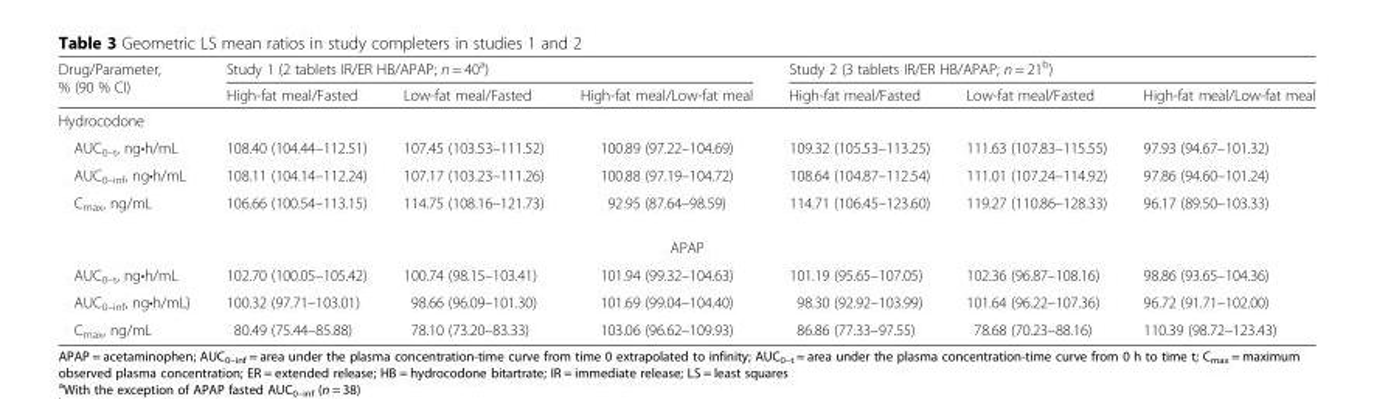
<table><thead><tr><td rowspan="2">Drug/Parameter, % (90 % CI)</td><td colspan="3">Study 1 (2 tablets IR/ER HB/APAP; n = 40<sup>a</sup>)</td><td colspan="3">Study 2 (3 tablets IR/ER HB/APAP; n = 21<sup>b</sup>)</td></tr><tr><td>High-fat meal/Fasted</td><td>Low-fat meal/Fasted</td><td>High-fat meal/Low-fat meal</td><td>High-fat meal/Fasted</td><td>Low-fat meal/Fasted</td><td>High-fat meal/Low-fat meal</td></tr></thead><tbody><tr><td colspan="7">Hydrocodone</td></tr><tr><td>AUC<sub>0–t</sub>, ng•h/mL</td><td>108.40 (104.44–112.51)</td><td>107.45 (103.53–111.52)</td><td>100.89 (97.22–104.69)</td><td>109.32 (105.53–113.25)</td><td>111.63 (107.83–115.55)</td><td>97.93 (94.67–101.32)</td></tr><tr><td>AUC<sub>0–inf</sub>, ng•h/mL</td><td>108.11 (104.14–112.24)</td><td>107.17 (103.23–111.26)</td><td>100.88 (97.19–104.72)</td><td>108.64 (104.87–112.54)</td><td>111.01 (107.24–114.92)</td><td>97.86 (94.60–101.24)</td></tr><tr><td>C<sub>max</sub>, ng/mL</td><td>106.66 (100.54–113.15)</td><td>114.75 (108.16–121.73)</td><td>92.95 (87.64–98.59)</td><td>114.71 (106.45–123.60)</td><td>119.27 (110.86–128.33)</td><td>96.17 (89.50–103.33)</td></tr><tr><td colspan="7">APAP</td></tr><tr><td>AUC<sub>0–t</sub>, ng•h/mL</td><td>102.70 (100.05–105.42)</td><td>100.74 (98.15–103.41)</td><td>101.94 (99.32–104.63)</td><td>101.19 (95.65–107.05)</td><td>102.36 (96.87–108.16)</td><td>98.86 (93.65–104.36)</td></tr><tr><td>AUC<sub>0–inf</sub>, ng•h/mL)</td><td>100.32 (97.71–103.01)</td><td>98.66 (96.09–101.30)</td><td>101.69 (99.04–104.40)</td><td>98.30 (92.92–103.99)</td><td>101.64 (96.22–107.36)</td><td>96.72 (91.71–102.00)</td></tr><tr><td>C<sub>max</sub>, ng/mL</td><td>80.49 (75.44–85.88)</td><td>78.10 (73.20–83.33)</td><td>103.06 (96.62–109.93)</td><td>86.86 (77.33–97.55)</td><td>78.68 (70.23–88.16)</td><td>110.39 (98.72–123.43)</td></tr></tbody></table>